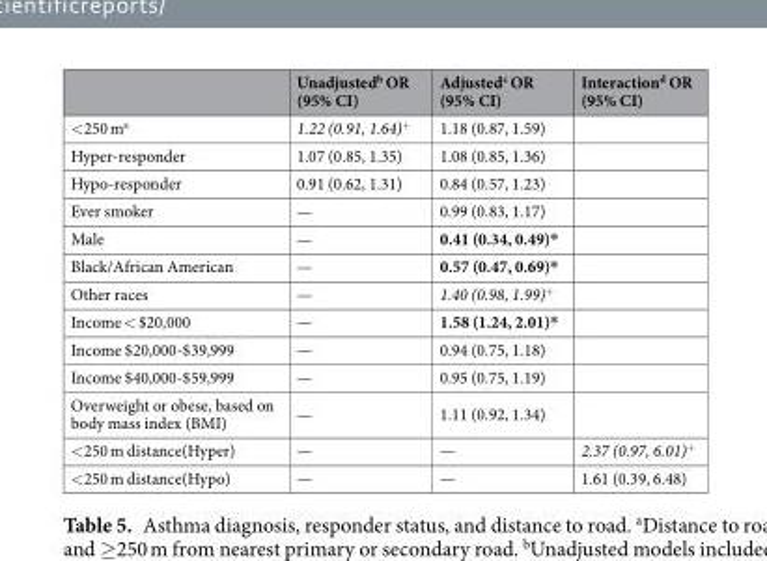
<table><thead><tr><td></td><td>Unadjusted<sup>b</sup> OR (95% CI)</td><td>Adjusted<sup>c</sup> OR (95% CI)</td><td>Interaction<sup>d</sup> OR (95% CI)</td></tr></thead><tbody><tr><td>&lt;250 m<sup>a</sup></td><td>1.22 (0.91, 1.64)<sup>+</sup></td><td>1.18 (0.87, 1.59)</td><td></td></tr><tr><td>Hyper-responder</td><td>1.07 (0.85, 1.35)</td><td>1.08 (0.85, 1.36)</td><td></td></tr><tr><td>Hypo-responder</td><td>0.91 (0.62, 1.31)</td><td>0.84 (0.57, 1.23)</td><td></td></tr><tr><td>Ever smoker</td><td>—</td><td>0.99 (0.83, 1.17)</td><td></td></tr><tr><td>Male</td><td>—</td><td>0.41 (0.34, 0.49)*</td><td></td></tr><tr><td>Black/African American</td><td>—</td><td>0.57 (0.47, 0.69)*</td><td></td></tr><tr><td>Other races</td><td>—</td><td>1.40 (0.98, 1.99)<sup>+</sup></td><td></td></tr><tr><td>Income &lt; $20,000</td><td>—</td><td>1.58 (1.24, 2.01)*</td><td></td></tr><tr><td>Income $20,000-$39,999</td><td>—</td><td>0.94 (0.75, 1.18)</td><td></td></tr><tr><td>Income $40,000-$59,999</td><td>—</td><td>0.95 (0.75, 1.19)</td><td></td></tr><tr><td>Overweight or obese, based on body mass index (BMI)</td><td>—</td><td>1.11 (0.92, 1.34)</td><td></td></tr><tr><td>&lt;250 m distance(Hyper)</td><td>—</td><td>—</td><td>2.37 (0.97, 6.01)<sup>+</sup></td></tr><tr><td>&lt;250 m distance(Hypo)</td><td>—</td><td>—</td><td>1.61 (0.39, 6.48)</td></tr></tbody></table>